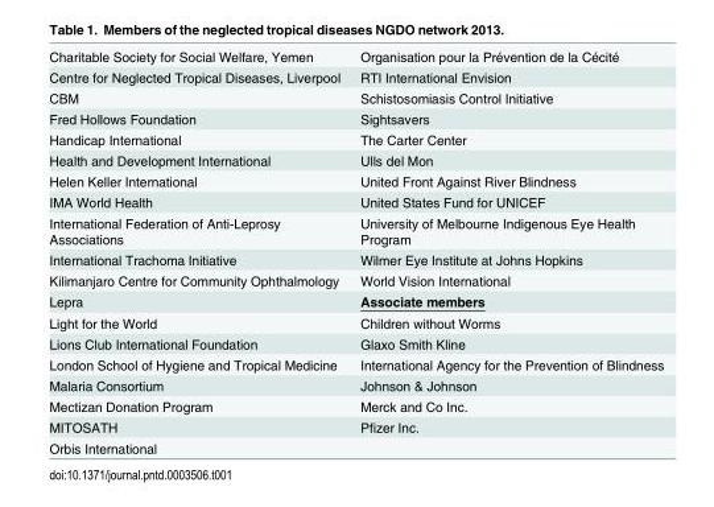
<table><tbody><tr><td>Charitable Society for Social Welfare, Yemen</td><td>Organisation pour la Prévention de la Cécité</td></tr><tr><td>Centre for Neglected Tropical Diseases, Liverpool</td><td>RTI International Envision</td></tr><tr><td>CBM</td><td>Schistosomiasis Control Initiative</td></tr><tr><td>Fred Hollows Foundation</td><td>Sightsavers</td></tr><tr><td>Handicap International</td><td>The Carter Center</td></tr><tr><td>Health and Development International</td><td>Ulls del Mon</td></tr><tr><td>Helen Keller International</td><td>United Front Against River Blindness</td></tr><tr><td>IMA World Health</td><td>United States Fund for UNICEF</td></tr><tr><td>International Federation of Anti-Leprosy Associations</td><td>University of Melbourne Indigenous Eye Health Program</td></tr><tr><td>International Trachoma Initiative</td><td>Wilmer Eye Institute at Johns Hopkins</td></tr><tr><td>Kilimanjaro Centre for Community Ophthalmology</td><td>World Vision International</td></tr><tr><td>Lepra</td><td>Associate members</td></tr><tr><td>Light for the World</td><td>Children without Worms</td></tr><tr><td>Lions Club International Foundation</td><td>Glaxo Smith Kline</td></tr><tr><td>London School of Hygiene and Tropical Medicine</td><td>International Agency for the Prevention of Blindness</td></tr><tr><td>Malaria Consortium</td><td>Johnson &amp; Johnson</td></tr><tr><td>Mectizan Donation Program</td><td>Merck and Co Inc.</td></tr><tr><td>MITOSATH</td><td>Pfizer Inc.</td></tr><tr><td>Orbis International</td><td></td></tr></tbody></table>